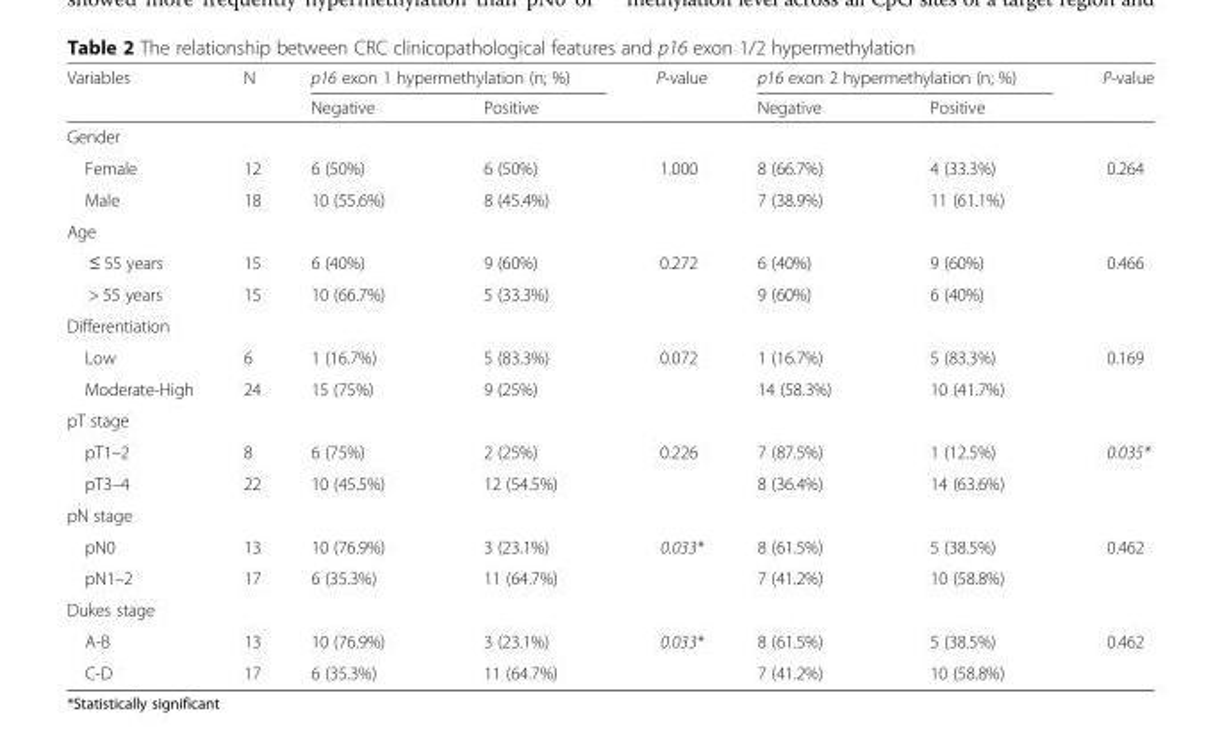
<table><thead><tr><td rowspan="2">Variables</td><td rowspan="2">N</td><td colspan="2">p16 exon 1 hypermethylation (n; %)</td><td rowspan="2">P-value</td><td colspan="2">p16 exon 2 hypermethylation (n; %)</td><td rowspan="2">P-value</td></tr><tr><td>Negative</td><td>Positive</td><td>Negative</td><td>Positive</td></tr></thead><tbody><tr><td colspan="8">Gender</td></tr><tr><td>Female</td><td>12</td><td>6 (50%)</td><td>6 (50%)</td><td rowspan="2">1.000</td><td>8 (66.7%)</td><td>4 (33.3%)</td><td rowspan="2">0.264</td></tr><tr><td>Male</td><td>18</td><td>10 (55.6%)</td><td>8 (45.4%)</td><td>7 (38.9%)</td><td>11 (61.1%)</td></tr><tr><td colspan="8">Age</td></tr><tr><td>≤ 55 years</td><td>15</td><td>6 (40%)</td><td>9 (60%)</td><td rowspan="2">0.272</td><td>6 (40%)</td><td>9 (60%)</td><td rowspan="2">0.466</td></tr><tr><td>&gt; 55 years</td><td>15</td><td>10 (66.7%)</td><td>5 (33.3%)</td><td>9 (60%)</td><td>6 (40%)</td></tr><tr><td colspan="8">Differentiation</td></tr><tr><td>Low</td><td>6</td><td>1 (16.7%)</td><td>5 (83.3%)</td><td rowspan="2">0.072</td><td>1 (16.7%)</td><td>5 (83.3%)</td><td rowspan="2">0.169</td></tr><tr><td>Moderate-High</td><td>24</td><td>15 (75%)</td><td>9 (25%)</td><td>14 (58.3%)</td><td>10 (41.7%)</td></tr><tr><td colspan="8">pT stage</td></tr><tr><td>pT1–2</td><td>8</td><td>6 (75%)</td><td>2 (25%)</td><td rowspan="2">0.226</td><td>7 (87.5%)</td><td>1 (12.5%)</td><td rowspan="2">0.035*</td></tr><tr><td>pT3–4</td><td>22</td><td>10 (45.5%)</td><td>12 (54.5%)</td><td>8 (36.4%)</td><td>14 (63.6%)</td></tr><tr><td colspan="8">pN stage</td></tr><tr><td>pN0</td><td>13</td><td>10 (76.9%)</td><td>3 (23.1%)</td><td rowspan="2">0.033*</td><td>8 (61.5%)</td><td>5 (38.5%)</td><td rowspan="2">0.462</td></tr><tr><td>pN1–2</td><td>17</td><td>6 (35.3%)</td><td>11 (64.7%)</td><td>7 (41.2%)</td><td>10 (58.8%)</td></tr><tr><td colspan="8">Dukes stage</td></tr><tr><td>A-B</td><td>13</td><td>10 (76.9%)</td><td>3 (23.1%)</td><td rowspan="2">0.033*</td><td>8 (61.5%)</td><td>5 (38.5%)</td><td rowspan="2">0.462</td></tr><tr><td>C-D</td><td>17</td><td>6 (35.3%)</td><td>11 (64.7%)</td><td>7 (41.2%)</td><td>10 (58.8%)</td></tr></tbody></table>